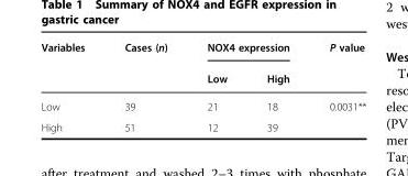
<table><thead><tr><td rowspan="2">Variables</td><td rowspan="2">Cases (n)</td><td colspan="2">NOX4 expression</td><td rowspan="2">P value</td></tr><tr><td>Low</td><td>High</td></tr></thead><tbody><tr><td>Low</td><td>39</td><td>21</td><td>18</td><td rowspan="2">0.0031**</td></tr><tr><td>High</td><td>51</td><td>12</td><td>39</td></tr></tbody></table>